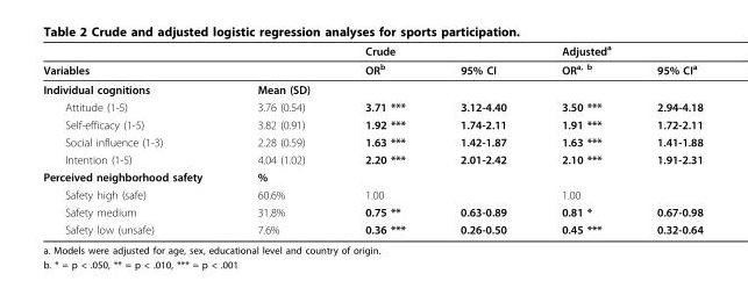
<table><thead><tr><td rowspan="2">Variables</td><td rowspan="2"></td><td colspan="2">Crude</td><td colspan="2">Adjusted<sup>a</sup></td></tr><tr><td>OR<sup>b</sup></td><td>95% CI</td><td>OR<sup>a, b</sup></td><td>95% CI<sup>a</sup></td></tr></thead><tbody><tr><td>Individual cognitions</td><td>Mean (SD)</td><td></td><td></td><td></td><td></td></tr><tr><td>Attitude (1-5)</td><td>3.76 (0.54)</td><td>3.71 ***</td><td>3.12-4.40</td><td>3.50 ***</td><td>2.94-4.18</td></tr><tr><td>Self-efficacy (1-5)</td><td>3.82 (0.91)</td><td>1.92 ***</td><td>1.74-2.11</td><td>1.91 ***</td><td>1.72-2.11</td></tr><tr><td>Social influence (1-3)</td><td>2.28 (0.59)</td><td>1.63 ***</td><td>1.42-1.87</td><td>1.63 ***</td><td>1.41-1.88</td></tr><tr><td>Intention (1-5)</td><td>4.04 (1.02)</td><td>2.20 ***</td><td>2.01-2.42</td><td>2.10 ***</td><td>1.91-2.31</td></tr><tr><td>Perceived neighborhood safety</td><td>%</td><td></td><td></td><td></td><td></td></tr><tr><td>Safety high (safe)</td><td>60.6%</td><td>1.00</td><td></td><td>1.00</td><td></td></tr><tr><td>Safety medium</td><td>31.8%</td><td>0.75 **</td><td>0.63-0.89</td><td>0.81 *</td><td>0.67-0.98</td></tr><tr><td>Safety low (unsafe)</td><td>7.6%</td><td>0.36 ***</td><td>0.26-0.50</td><td>0.45 ***</td><td>0.32-0.64</td></tr></tbody></table>